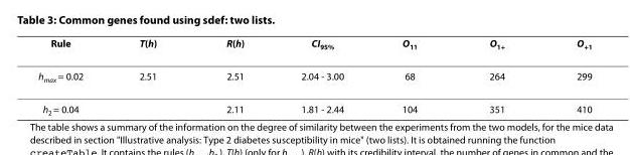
<table><thead><tr><td>Rule</td><td>T(h)</td><td>R(h)</td><td>CI<sub>95%</sub></td><td>O<sub>11</sub></td><td>O<sub>1+</sub></td><td>O<sub>+1</sub></td></tr></thead><tbody><tr><td>h<sub>max</sub> = 0.02</td><td>2.51</td><td>2.51</td><td>2.04 - 3.00</td><td>68</td><td>264</td><td>299</td></tr><tr><td>h<sub>2</sub> = 0.04</td><td></td><td>2.11</td><td>1.81 - 2.44</td><td>104</td><td>351</td><td>410</td></tr></tbody></table>